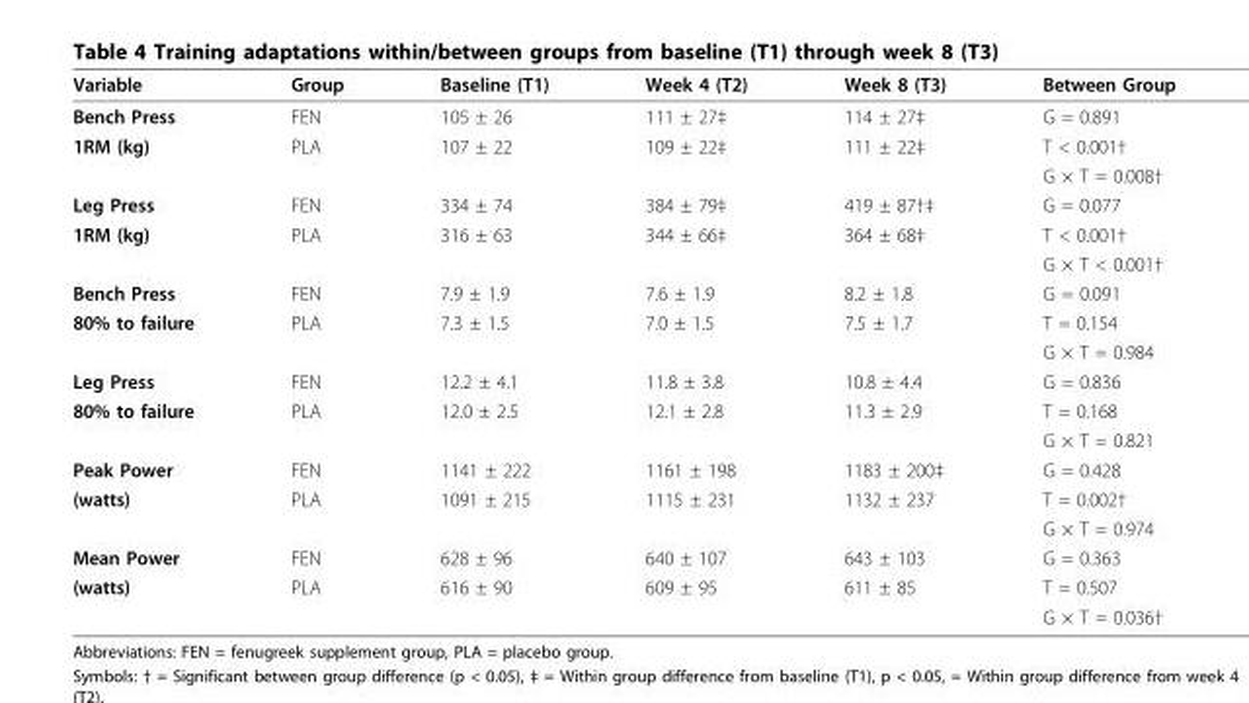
<table><thead><tr><td>Variable</td><td>Group</td><td>Baseline (T1)</td><td>Week 4 (T2)</td><td>Week 8 (T3)</td><td>Between Group</td></tr></thead><tbody><tr><td>Bench Press</td><td>FEN</td><td>105 ± 26</td><td>111 ± 27‡</td><td>114 ± 27‡</td><td>G = 0.891</td></tr><tr><td rowspan="2">1RM (kg)</td><td>PLA</td><td>107 ± 22</td><td>109 ± 22‡</td><td>111 ± 22‡</td><td>T &lt; 0.001†</td></tr><tr><td></td><td></td><td></td><td></td><td>G × T = 0.008†</td></tr><tr><td>Leg Press</td><td>FEN</td><td>334 ± 74</td><td>384 ± 79‡</td><td>419 ± 87†‡</td><td>G = 0.077</td></tr><tr><td rowspan="2">1RM (kg)</td><td>PLA</td><td>316 ± 63</td><td>344 ± 66‡</td><td>364 ± 68‡</td><td>T &lt; 0.001†</td></tr><tr><td></td><td></td><td></td><td></td><td>G × T &lt; 0.001†</td></tr><tr><td>Bench Press</td><td>FEN</td><td>7.9 ± 1.9</td><td>7.6 ± 1.9</td><td>8.2 ± 1.8</td><td>G = 0.091</td></tr><tr><td rowspan="2">80% to failure</td><td>PLA</td><td>7.3 ± 1.5</td><td>7.0 ± 1.5</td><td>7.5 ± 1.7</td><td>T = 0.154</td></tr><tr><td></td><td></td><td></td><td></td><td>G × T = 0.984</td></tr><tr><td>Leg Press</td><td>FEN</td><td>12.2 ± 4.1</td><td>11.8 ± 3.8</td><td>10.8 ± 4.4</td><td>G = 0.836</td></tr><tr><td rowspan="2">80% to failure</td><td>PLA</td><td>12.0 ± 2.5</td><td>12.1 ± 2.8</td><td>11.3 ± 2.9</td><td>T = 0.168</td></tr><tr><td></td><td></td><td></td><td></td><td>G × T = 0.821</td></tr><tr><td>Peak Power</td><td>FEN</td><td>1141 ± 222</td><td>1161 ± 198</td><td>1183 ± 200‡</td><td>G = 0.428</td></tr><tr><td rowspan="2">(watts)</td><td>PLA</td><td>1091 ± 215</td><td>1115 ± 231</td><td>1132 ± 237</td><td>T = 0.002†</td></tr><tr><td></td><td></td><td></td><td></td><td>G × T = 0.974</td></tr><tr><td>Mean Power</td><td>FEN</td><td>628 ± 96</td><td>640 ± 107</td><td>643 ± 103</td><td>G = 0.363</td></tr><tr><td rowspan="2">(watts)</td><td>PLA</td><td>616 ± 90</td><td>609 ± 95</td><td>611 ± 85</td><td>T = 0.507</td></tr><tr><td></td><td></td><td></td><td></td><td>G × T = 0.036†</td></tr></tbody></table>